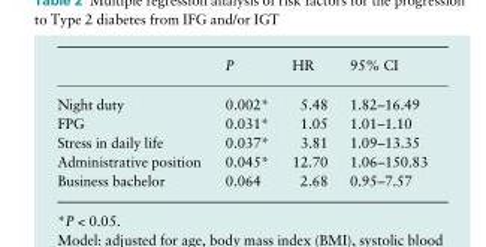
<table><thead><tr><td></td><td>P</td><td>HR</td><td>95% CI</td></tr></thead><tbody><tr><td>Night duty</td><td>0.002*</td><td>5.48</td><td>1.82–16.49</td></tr><tr><td>FPG</td><td>0.031*</td><td>1.05</td><td>1.01–1.10</td></tr><tr><td>Stress in daily life</td><td>0.037*</td><td>3.81</td><td>1.09–13.35</td></tr><tr><td>Administrative position</td><td>0.045*</td><td>12.70</td><td>1.06–150.83</td></tr><tr><td>Business bachelor</td><td>0.064</td><td>2.68</td><td>0.95–7.57</td></tr></tbody></table>